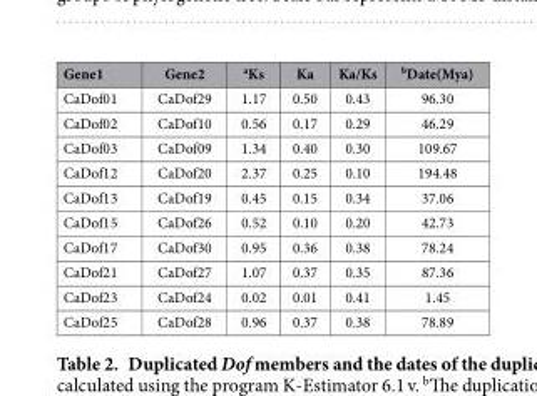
<table><thead><tr><td>Gene1</td><td>Gene2</td><td>aKs</td><td>Ka</td><td>Ka/Ks</td><td>bDate(Mya)</td></tr></thead><tbody><tr><td>CaDof01</td><td>CaDof29</td><td>1.17</td><td>0.50</td><td>0.43</td><td>96.30</td></tr><tr><td>CaDof02</td><td>CaDof10</td><td>0.56</td><td>0.17</td><td>0.29</td><td>46.29</td></tr><tr><td>CaDof03</td><td>CaDof09</td><td>1.34</td><td>0.40</td><td>0.30</td><td>109.67</td></tr><tr><td>CaDof12</td><td>CaDof20</td><td>2.37</td><td>0.25</td><td>0.10</td><td>194.48</td></tr><tr><td>CaDof13</td><td>CaDof19</td><td>0.45</td><td>0.15</td><td>0.34</td><td>37.06</td></tr><tr><td>CaDof15</td><td>CaDof26</td><td>0.52</td><td>0.10</td><td>0.20</td><td>42.73</td></tr><tr><td>CaDof17</td><td>CaDof30</td><td>0.95</td><td>0.36</td><td>0.38</td><td>78.24</td></tr><tr><td>CaDof21</td><td>CaDof27</td><td>1.07</td><td>0.37</td><td>0.35</td><td>87.36</td></tr><tr><td>CaDof23</td><td>CaDof24</td><td>0.02</td><td>0.01</td><td>0.41</td><td>1.45</td></tr><tr><td>CaDof25</td><td>CaDof28</td><td>0.96</td><td>0.37</td><td>0.38</td><td>78.89</td></tr></tbody></table>